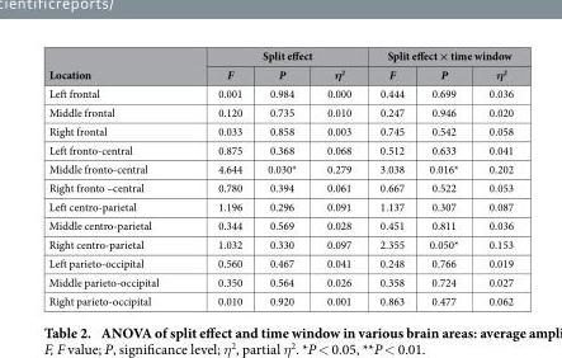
<table><thead><tr><td rowspan="2">Location</td><td colspan="3">Split effect</td><td colspan="3">Split effect × time window</td></tr><tr><td>F</td><td>P</td><td>η<sup>2</sup></td><td>F</td><td>P</td><td>η<sup>2</sup></td></tr></thead><tbody><tr><td>Left frontal</td><td>0.001</td><td>0.984</td><td>0.000</td><td>0.444</td><td>0.699</td><td>0.036</td></tr><tr><td>Middle frontal</td><td>0.120</td><td>0.735</td><td>0.010</td><td>0.247</td><td>0.946</td><td>0.020</td></tr><tr><td>Right frontal</td><td>0.033</td><td>0.858</td><td>0.003</td><td>0.745</td><td>0.542</td><td>0.058</td></tr><tr><td>Left fronto-central</td><td>0.875</td><td>0.368</td><td>0.068</td><td>0.512</td><td>0.633</td><td>0.041</td></tr><tr><td>Middle fronto-central</td><td>4.644</td><td>0.030*</td><td>0.279</td><td>3.038</td><td>0.016*</td><td>0.202</td></tr><tr><td>Right fronto –central</td><td>0.780</td><td>0.394</td><td>0.061</td><td>0.667</td><td>0.522</td><td>0.053</td></tr><tr><td>Left centro-parietal</td><td>1.196</td><td>0.296</td><td>0.091</td><td>1.137</td><td>0.307</td><td>0.087</td></tr><tr><td>Middle centro-parietal</td><td>0.344</td><td>0.569</td><td>0.028</td><td>0.451</td><td>0.811</td><td>0.036</td></tr><tr><td>Right centro-parietal</td><td>1.032</td><td>0.330</td><td>0.097</td><td>2.355</td><td>0.050*</td><td>0.153</td></tr><tr><td>Left parieto-occipital</td><td>0.560</td><td>0.467</td><td>0.041</td><td>0.248</td><td>0.766</td><td>0.019</td></tr><tr><td>Middle parieto-occipital</td><td>0.350</td><td>0.564</td><td>0.026</td><td>0.358</td><td>0.724</td><td>0.027</td></tr><tr><td>Right parieto-occipital</td><td>0.010</td><td>0.920</td><td>0.001</td><td>0.863</td><td>0.477</td><td>0.062</td></tr></tbody></table>